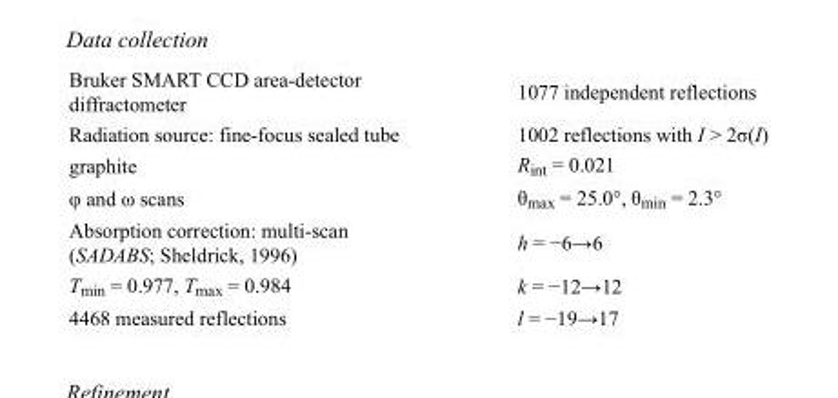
<table><tbody><tr><td>Bruker SMART CCD area-detector diffractometer</td><td>1077 independent reflections</td></tr><tr><td>Radiation source: fine-focus sealed tube</td><td>1002 reflections with I &gt; 2σ(I)</td></tr><tr><td>graphite</td><td>R<sub>int</sub> = 0.021</td></tr><tr><td>φ and ω scans</td><td>θ<sub>max</sub> = 25.0°, θ<sub>min</sub> = 2.3°</td></tr><tr><td>Absorption correction: multi-scan (SADABS; Sheldrick, 1996)</td><td>h = −6→6</td></tr><tr><td>T<sub>min</sub> = 0.977, T<sub>max</sub> = 0.984</td><td>k = −12→12</td></tr><tr><td>4468 measured reflections</td><td>l = −19→17</td></tr></tbody></table>